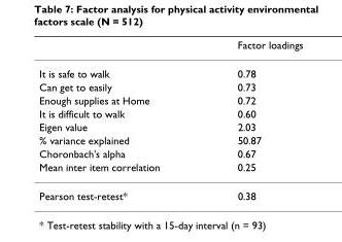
<table><thead><tr><td></td><td>Factor loadings</td></tr></thead><tbody><tr><td>It is safe to walk</td><td>0.78</td></tr><tr><td>Can get to easily</td><td>0.73</td></tr><tr><td>Enough supplies at Home</td><td>0.72</td></tr><tr><td>It is difficult to walk</td><td>0.60</td></tr><tr><td>Eigen value</td><td>2.03</td></tr><tr><td>% variance explained</td><td>50.87</td></tr><tr><td>Choronbach&#x27;s alpha</td><td>0.67</td></tr><tr><td>Mean inter item correlation</td><td>0.25</td></tr><tr><td>Pearson test-retest*</td><td>0.38</td></tr></tbody></table>